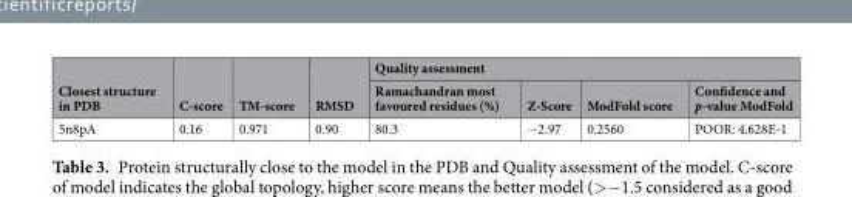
<table><thead><tr><td rowspan="2">Closest structure in PDB</td><td rowspan="2">C-score</td><td rowspan="2">TM-score</td><td rowspan="2">RMSD</td><td colspan="4">Quality assessment</td></tr><tr><td>Ramachandran most favoured residues (%)</td><td>Z-Score</td><td>ModFold score</td><td>Confidence and p-value ModFold</td></tr></thead><tbody><tr><td>5n8pA</td><td>0.16</td><td>0.971</td><td>0.90</td><td>80.3</td><td>−2.97</td><td>0.2560</td><td>POOR: 4.628E-1</td></tr></tbody></table>